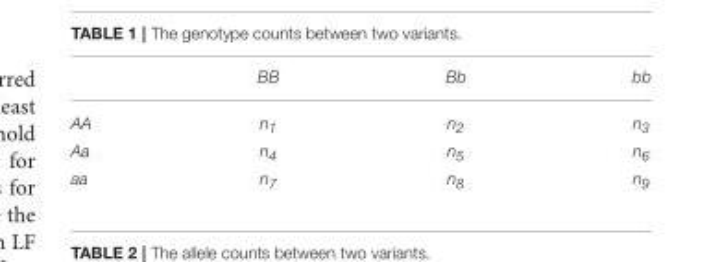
<table><thead><tr><td></td><td>BB</td><td>Bb</td><td>bb</td></tr></thead><tbody><tr><td>AA</td><td>n<sub>1</sub></td><td>n<sub>2</sub></td><td>n<sub>3</sub></td></tr><tr><td>Aa</td><td>n<sub>4</sub></td><td>n<sub>5</sub></td><td>n<sub>6</sub></td></tr><tr><td>aa</td><td>n<sub>7</sub></td><td>n<sub>8</sub></td><td>n<sub>9</sub></td></tr></tbody></table>